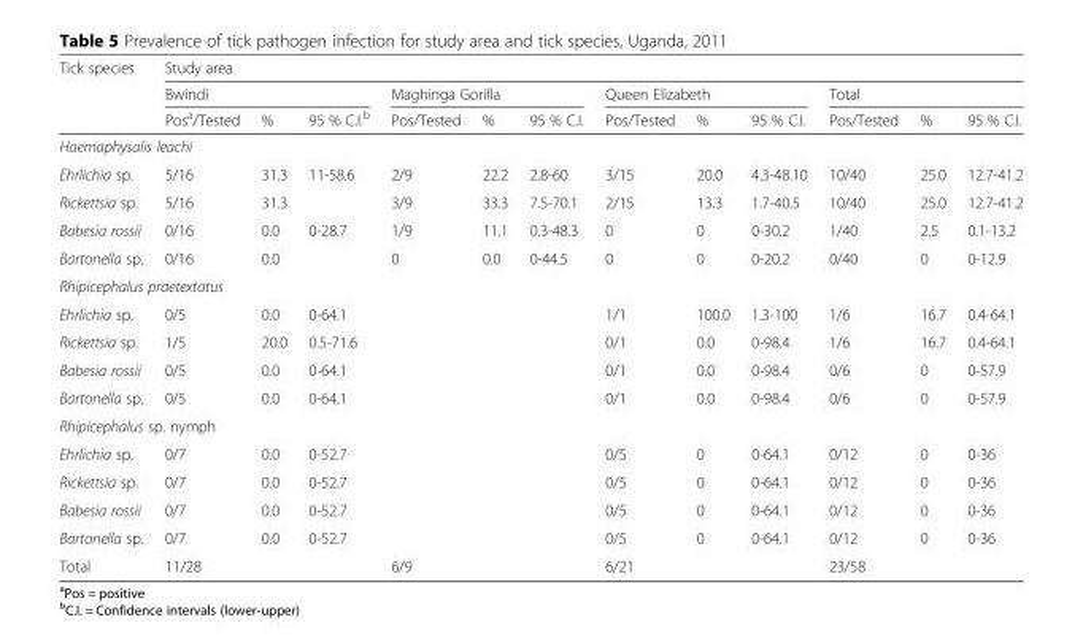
<table><thead><tr><td rowspan="3">Tick species</td><td colspan="12">Study area</td></tr><tr><td colspan="3">Bwindi</td><td colspan="3">Maghinga Gorilla</td><td colspan="3">Queen Elizabeth</td><td colspan="3">Total</td></tr><tr><td>Pos<sup>a</sup>/Tested</td><td>%</td><td>95 % C.I.<sup>b</sup></td><td>Pos/Tested</td><td>%</td><td>95 % C.I.</td><td>Pos/Tested</td><td>%</td><td>95 % C.I.</td><td>Pos/Tested</td><td>%</td><td>95 % C.I.</td></tr></thead><tbody><tr><td colspan="13">Haemaphysalis leachi</td></tr><tr><td>Ehrlichia sp.</td><td>5/16</td><td>31.3</td><td>11-58.6</td><td>2/9</td><td>22.2</td><td>2.8-60</td><td>3/15</td><td>20.0</td><td>4.3-48.10</td><td>10/40</td><td>25.0</td><td>12.7-41.2</td></tr><tr><td>Rickettsia sp.</td><td>5/16</td><td>31.3</td><td></td><td>3/9</td><td>33.3</td><td>7.5-70.1</td><td>2/15</td><td>13.3</td><td>1.7-40.5</td><td>10/40</td><td>25.0</td><td>12.7-41.2</td></tr><tr><td>Babesia rossii</td><td>0/16</td><td>0.0</td><td>0-28.7</td><td>1/9</td><td>11.1</td><td>0.3-48.3</td><td>0</td><td>0</td><td>0-30.2</td><td>1/40</td><td>2.5</td><td>0.1-13.2</td></tr><tr><td>Bartonella sp.</td><td>0/16</td><td>0.0</td><td></td><td>0</td><td>0.0</td><td>0-44.5</td><td>0</td><td>0</td><td>0-20.2</td><td>0/40</td><td>0</td><td>0-12.9</td></tr><tr><td colspan="13">Rhipicephalus praetextatus</td></tr><tr><td>Ehrlichia sp.</td><td>0/5</td><td>0.0</td><td>0-64.1</td><td></td><td></td><td></td><td>1/1</td><td>100.0</td><td>1.3-100</td><td>1/6</td><td>16.7</td><td>0.4-64.1</td></tr><tr><td>Rickettsia sp.</td><td>1/5</td><td>20.0</td><td>0.5-71.6</td><td></td><td></td><td></td><td>0/1</td><td>0.0</td><td>0-98.4</td><td>1/6</td><td>16.7</td><td>0.4-64.1</td></tr><tr><td>Babesia rossii</td><td>0/5</td><td>0.0</td><td>0-64.1</td><td></td><td></td><td></td><td>0/1</td><td>0.0</td><td>0-98.4</td><td>0/6</td><td>0</td><td>0-57.9</td></tr><tr><td>Bartonella sp.</td><td>0/5</td><td>0.0</td><td>0-64.1</td><td></td><td></td><td></td><td>0/1</td><td>0.0</td><td>0-98.4</td><td>0/6</td><td>0</td><td>0-57.9</td></tr><tr><td colspan="13">Rhipicephalus sp. nymph</td></tr><tr><td>Ehrlichia sp.</td><td>0/7</td><td>0.0</td><td>0-52.7</td><td></td><td></td><td></td><td>0/5</td><td>0</td><td>0-64.1</td><td>0/12</td><td>0</td><td>0-36</td></tr><tr><td>Rickettsia sp.</td><td>0/7</td><td>0.0</td><td>0-52.7</td><td></td><td></td><td></td><td>0/5</td><td>0</td><td>0-64.1</td><td>0/12</td><td>0</td><td>0-36</td></tr><tr><td>Babesia rossii</td><td>0/7</td><td>0.0</td><td>0-52.7</td><td></td><td></td><td></td><td>0/5</td><td>0</td><td>0-64.1</td><td>0/12</td><td>0</td><td>0-36</td></tr><tr><td>Bartonella sp.</td><td>0/7</td><td>0.0</td><td>0-52.7</td><td></td><td></td><td></td><td>0/5</td><td>0</td><td>0-64.1</td><td>0/12</td><td>0</td><td>0-36</td></tr><tr><td>Total</td><td>11/28</td><td></td><td></td><td>6/9</td><td></td><td></td><td>6/21</td><td></td><td></td><td>23/58</td><td></td><td></td></tr></tbody></table>